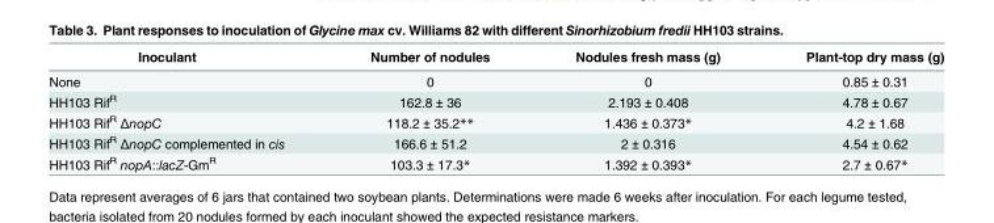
<table><thead><tr><td>Inoculant</td><td>Number of nodules</td><td>Nodules fresh mass (g)</td><td>Plant-top dry mass (g)</td></tr></thead><tbody><tr><td>None</td><td>0</td><td>0</td><td>0.85 ± 0.31</td></tr><tr><td>HH103 Rif<sup>R</sup></td><td>162.8 ± 36</td><td>2.193 ± 0.408</td><td>4.78 ± 0.67</td></tr><tr><td>HH103 Rif<sup>R</sup> ΔnopC</td><td>118.2 ± 35.2**</td><td>1.436 ± 0.373*</td><td>4.2 ± 1.68</td></tr><tr><td>HH103 Rif<sup>R</sup> ΔnopC complemented in cis</td><td>166.6 ± 51.2</td><td>2 ± 0.316</td><td>4.54 ± 0.62</td></tr><tr><td>HH103 Rif<sup>R</sup> nopA::lacZ-Gm<sup>R</sup></td><td>103.3 ± 17.3*</td><td>1.392 ± 0.393*</td><td>2.7 ± 0.67*</td></tr></tbody></table>